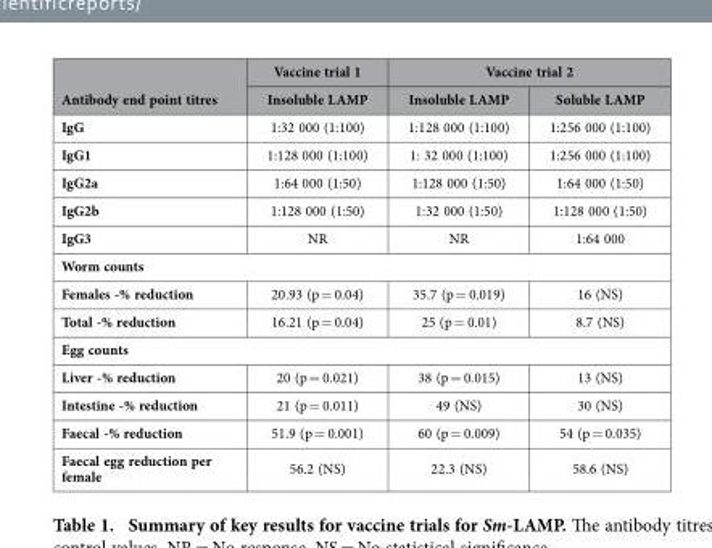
<table><thead><tr><td rowspan="2">Antibody end point titres</td><td rowspan="2">Vaccine trial 1 Insoluble LAMP</td><td colspan="2">Vaccine trial 2</td></tr><tr><td>Insoluble LAMP</td><td>Soluble LAMP</td></tr></thead><tbody><tr><td>IgG</td><td>1:32 000 (1:100)</td><td>1:128 000 (1:100)</td><td>1:256 000 (1:100)</td></tr><tr><td>IgG1</td><td>1:128 000 (1:100)</td><td>1: 32 000 (1:100)</td><td>1:256 000 (1:100)</td></tr><tr><td>IgG2a</td><td>1:64 000 (1:50)</td><td>1:128 000 (1:50)</td><td>1:64 000 (1:50)</td></tr><tr><td>IgG2b</td><td>1:128 000 (1:50)</td><td>1:32 000 (1:50)</td><td>1:128 000 (1:50)</td></tr><tr><td>IgG3</td><td>NR</td><td>NR</td><td>1:64 000</td></tr><tr><td colspan="4">Worm counts</td></tr><tr><td>Females -% reduction</td><td>20.93 (p = 0.04)</td><td>35.7 (p = 0.019)</td><td>16 (NS)</td></tr><tr><td>Total -% reduction</td><td>16.21 (p = 0.04)</td><td>25 (p = 0.01)</td><td>8.7 (NS)</td></tr><tr><td colspan="4">Egg counts</td></tr><tr><td>Liver -% reduction</td><td>20 (p = 0.021)</td><td>38 (p = 0.015)</td><td>13 (NS)</td></tr><tr><td>Intestine -% reduction</td><td>21 (p = 0.011)</td><td>49 (NS)</td><td>30 (NS)</td></tr><tr><td>Faecal -% reduction</td><td>51.9 (p = 0.001)</td><td>60 (p = 0.009)</td><td>54 (p = 0.035)</td></tr><tr><td>Faecal egg reduction per female</td><td>56.2 (NS)</td><td>22.3 (NS)</td><td>58.6 (NS)</td></tr></tbody></table>